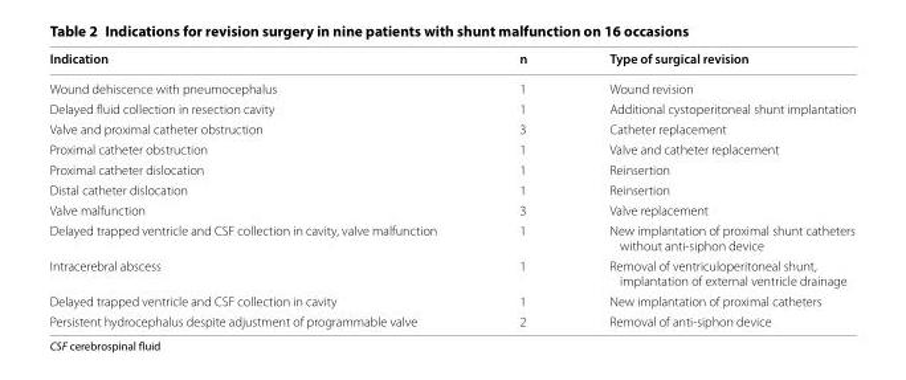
<table><thead><tr><td>Indication</td><td>n</td><td>Type of surgical revision</td></tr></thead><tbody><tr><td>Wound dehiscence with pneumocephalus</td><td>1</td><td>Wound revision</td></tr><tr><td>Delayed fluid collection in resection cavity</td><td>1</td><td>Additional cystoperitoneal shunt implantation</td></tr><tr><td>Valve and proximal catheter obstruction</td><td>3</td><td>Catheter replacement</td></tr><tr><td>Proximal catheter obstruction</td><td>1</td><td>Valve and catheter replacement</td></tr><tr><td>Proximal catheter dislocation</td><td>1</td><td>Reinsertion</td></tr><tr><td>Distal catheter dislocation</td><td>1</td><td>Reinsertion</td></tr><tr><td>Valve malfunction</td><td>3</td><td>Valve replacement</td></tr><tr><td>Delayed trapped ventricle and CSF collection in cavity, valve malfunction</td><td>1</td><td>New implantation of proximal shunt catheters without anti-siphon device</td></tr><tr><td>Intracerebral abscess</td><td>1</td><td>Removal of ventriculoperitoneal shunt, implantation of external ventricle drainage</td></tr><tr><td>Delayed trapped ventricle and CSF collection in cavity</td><td>1</td><td>New implantation of proximal catheters</td></tr><tr><td>Persistent hydrocephalus despite adjustment of programmable valve</td><td>2</td><td>Removal of anti-siphon device</td></tr></tbody></table>